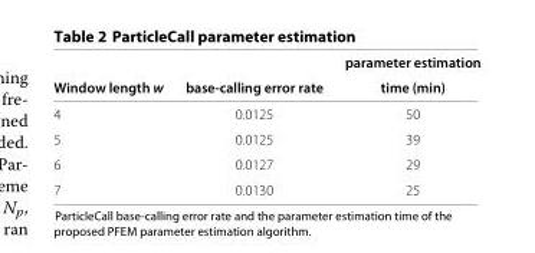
<table><thead><tr><td rowspan="2">Window length w</td><td rowspan="2">base-calling error rate</td><td rowspan="2">parameter estimation time (min)</td></tr><tr></tr></thead><tbody><tr><td>4</td><td>0.0125</td><td>50</td></tr><tr><td>5</td><td>0.0125</td><td>39</td></tr><tr><td>6</td><td>0.0127</td><td>29</td></tr><tr><td>7</td><td>0.0130</td><td>25</td></tr></tbody></table>